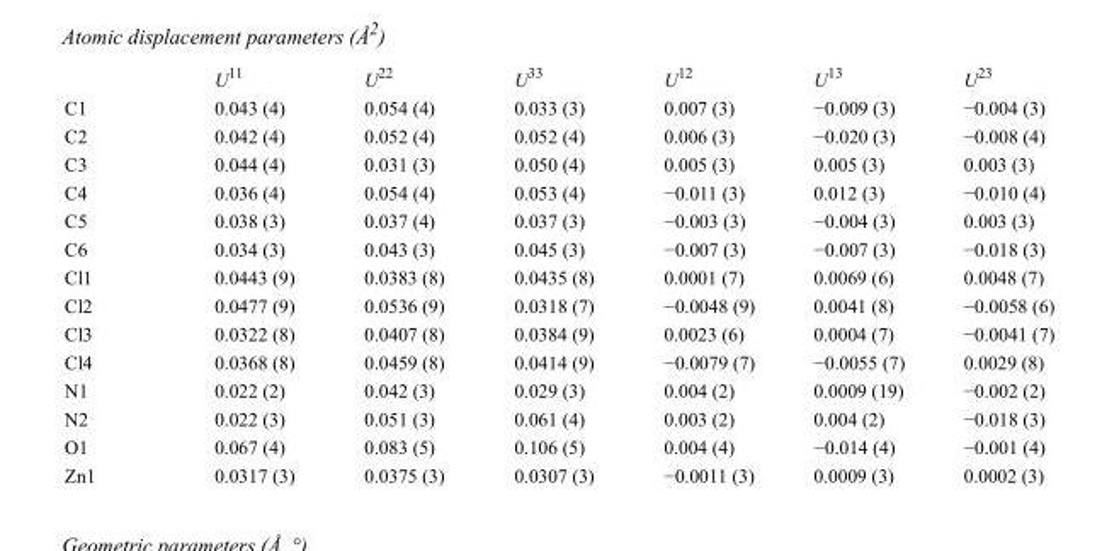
<table><thead><tr><td></td><td>U<sup>11</sup></td><td>U<sup>22</sup></td><td>U<sup>33</sup></td><td>U<sup>12</sup></td><td>U<sup>13</sup></td><td>U<sup>23</sup></td></tr></thead><tbody><tr><td>C1</td><td>0.043 (4)</td><td>0.054 (4)</td><td>0.033 (3)</td><td>0.007 (3)</td><td>−0.009 (3)</td><td>−0.004 (3)</td></tr><tr><td>C2</td><td>0.042 (4)</td><td>0.052 (4)</td><td>0.052 (4)</td><td>0.006 (3)</td><td>−0.020 (3)</td><td>−0.008 (4)</td></tr><tr><td>C3</td><td>0.044 (4)</td><td>0.031 (3)</td><td>0.050 (4)</td><td>0.005 (3)</td><td>0.005 (3)</td><td>0.003 (3)</td></tr><tr><td>C4</td><td>0.036 (4)</td><td>0.054 (4)</td><td>0.053 (4)</td><td>−0.011 (3)</td><td>0.012 (3)</td><td>−0.010 (4)</td></tr><tr><td>C5</td><td>0.038 (3)</td><td>0.037 (4)</td><td>0.037 (3)</td><td>−0.003 (3)</td><td>−0.004 (3)</td><td>0.003 (3)</td></tr><tr><td>C6</td><td>0.034 (3)</td><td>0.043 (3)</td><td>0.045 (3)</td><td>−0.007 (3)</td><td>−0.007 (3)</td><td>−0.018 (3)</td></tr><tr><td>Cl1</td><td>0.0443 (9)</td><td>0.0383 (8)</td><td>0.0435 (8)</td><td>0.0001 (7)</td><td>0.0069 (6)</td><td>0.0048 (7)</td></tr><tr><td>Cl2</td><td>0.0477 (9)</td><td>0.0536 (9)</td><td>0.0318 (7)</td><td>−0.0048 (9)</td><td>0.0041 (8)</td><td>−0.0058 (6)</td></tr><tr><td>Cl3</td><td>0.0322 (8)</td><td>0.0407 (8)</td><td>0.0384 (9)</td><td>0.0023 (6)</td><td>0.0004 (7)</td><td>−0.0041 (7)</td></tr><tr><td>Cl4</td><td>0.0368 (8)</td><td>0.0459 (8)</td><td>0.0414 (9)</td><td>−0.0079 (7)</td><td>−0.0055 (7)</td><td>0.0029 (8)</td></tr><tr><td>N1</td><td>0.022 (2)</td><td>0.042 (3)</td><td>0.029 (3)</td><td>0.004 (2)</td><td>0.0009 (19)</td><td>−0.002 (2)</td></tr><tr><td>N2</td><td>0.022 (3)</td><td>0.051 (3)</td><td>0.061 (4)</td><td>0.003 (2)</td><td>0.004 (2)</td><td>−0.018 (3)</td></tr><tr><td>O1</td><td>0.067 (4)</td><td>0.083 (5)</td><td>0.106 (5)</td><td>0.004 (4)</td><td>−0.014 (4)</td><td>−0.001 (4)</td></tr><tr><td>Zn1</td><td>0.0317 (3)</td><td>0.0375 (3)</td><td>0.0307 (3)</td><td>−0.0011 (3)</td><td>0.0009 (3)</td><td>0.0002 (3)</td></tr></tbody></table>